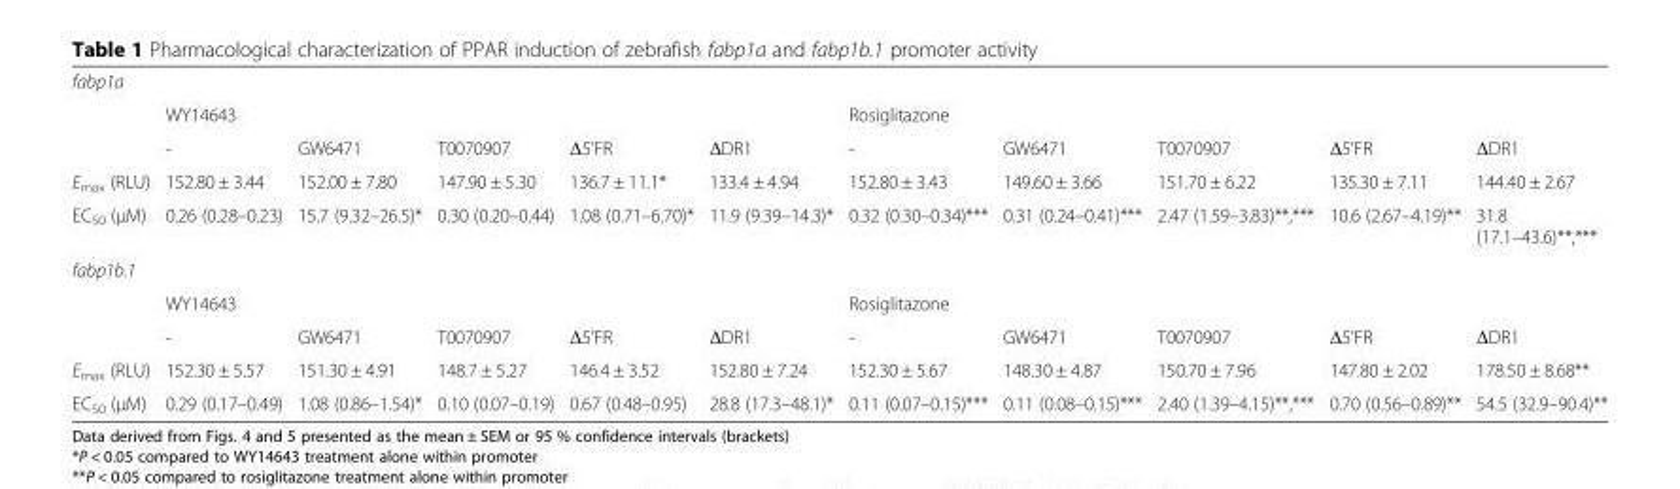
<table><tbody><tr><td colspan="11">fabp1a</td></tr><tr><td></td><td colspan="5">WY14643</td><td colspan="5">Rosiglitazone</td></tr><tr><td></td><td>-</td><td>GW6471</td><td>T0070907</td><td>Δ5’FR</td><td>ΔDR1</td><td>-</td><td>GW6471</td><td>T0070907</td><td>Δ5’FR</td><td>ΔDR1</td></tr><tr><td>E<sub>max</sub> (RLU)</td><td>152.80 ± 3.44</td><td>152.00 ± 7.80</td><td>147.90 ± 5.30</td><td>136.7 ± 11.1*</td><td>133.4 ± 4.94</td><td>152.80 ± 3.43</td><td>149.60 ± 3.66</td><td>151.70 ± 6.22</td><td>135.30 ± 7.11</td><td>144.40 ± 2.67</td></tr><tr><td>EC<sub>50</sub> (μM)</td><td>0.26 (0.28–0.23)</td><td>15.7 (9.32–26.5)*</td><td>0.30 (0.20–0.44)</td><td>1.08 (0.71–6.70)*</td><td>11.9 (9.39–14.3)*</td><td>0.32 (0.30–0.34)***</td><td>0.31 (0.24–0.41)***</td><td>2.47 (1.59–3.83)**,***</td><td>10.6 (2.67–4.19)**</td><td>31.8 (17.1–43.6)**,***</td></tr><tr><td colspan="11">fabp1b.1</td></tr><tr><td></td><td colspan="5">WY14643</td><td colspan="5">Rosiglitazone</td></tr><tr><td></td><td>-</td><td>GW6471</td><td>T0070907</td><td>Δ5’FR</td><td>ΔDR1</td><td>-</td><td>GW6471</td><td>T0070907</td><td>Δ5’FR</td><td>ΔDR1</td></tr><tr><td>E<sub>max</sub> (RLU)</td><td>152.30 ± 5.57</td><td>151.30 ± 4.91</td><td>148.7 ± 5.27</td><td>146.4 ± 3.52</td><td>152.80 ± 7.24</td><td>152.30 ± 5.67</td><td>148.30 ± 4.87</td><td>150.70 ± 7.96</td><td>147.80 ± 2.02</td><td>178.50 ± 8.68**</td></tr><tr><td>EC<sub>50</sub> (μM)</td><td>0.29 (0.17–0.49)</td><td>1.08 (0.86–1.54)*</td><td>0.10 (0.07–0.19)</td><td>0.67 (0.48–0.95)</td><td>28.8 (17.3–48.1)*</td><td>0.11 (0.07–0.15)***</td><td>0.11 (0.08–0.15)***</td><td>2.40 (1.39–4.15)**,***</td><td>0.70 (0.56–0.89)**</td><td>54.5 (32.9–90.4)**</td></tr></tbody></table>